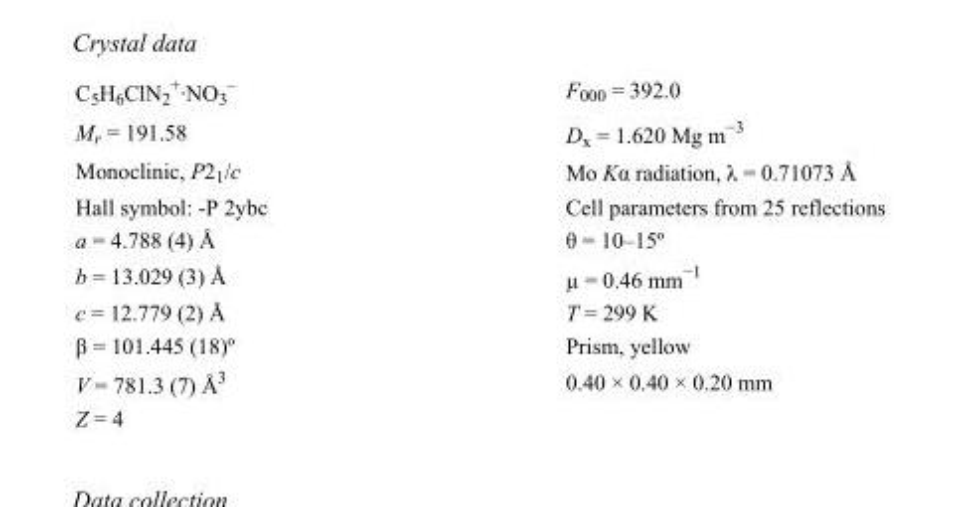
<table><tbody><tr><td>C<sub>5</sub>H<sub>6</sub>ClN<sub>2</sub> <sup>+</sup>·NO<sub>3</sub> <sup>–</sup></td><td>F000 = 392.0</td></tr><tr><td>M<sub>r</sub> = 191.58</td><td>D<sub>x</sub> = 1.620 Mg m<sup>−3</sup></td></tr><tr><td>Monoclinic, P2<sub>1</sub>/c</td><td>Mo Kα radiation, λ = 0.71073 Å</td></tr><tr><td>Hall symbol: -P 2ybc</td><td>Cell parameters from 25 reflections</td></tr><tr><td>a = 4.788 (4) Å</td><td>θ = 10–15º</td></tr><tr><td>b = 13.029 (3) Å</td><td>µ = 0.46 mm<sup>−1</sup></td></tr><tr><td>c = 12.779 (2) Å</td><td>T = 299 K</td></tr><tr><td>β = 101.445 (18)º</td><td>Prism, yellow</td></tr><tr><td>V = 781.3 (7) Å<sup>3</sup></td><td>0.40 × 0.40 × 0.20 mm</td></tr><tr><td>Z = 4</td><td></td></tr></tbody></table>